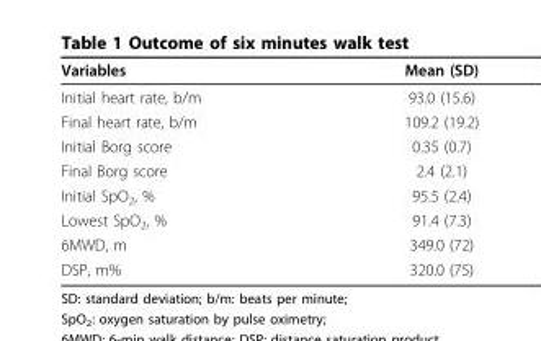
<table><thead><tr><td>Variables</td><td>Mean (SD)</td></tr></thead><tbody><tr><td>Initial heart rate, b/m</td><td>93.0 (15.6)</td></tr><tr><td>Final heart rate, b/m</td><td>109.2 (19.2)</td></tr><tr><td>Initial Borg score</td><td>0.35 (0.7)</td></tr><tr><td>Final Borg score</td><td>2.4 (2.1)</td></tr><tr><td>Initial SpO<sub>2</sub>, %</td><td>95.5 (2.4)</td></tr><tr><td>Lowest SpO<sub>2</sub>, %</td><td>91.4 (7.3)</td></tr><tr><td>6MWD, m</td><td>349.0 (72)</td></tr><tr><td>DSP, m%</td><td>320.0 (75)</td></tr></tbody></table>